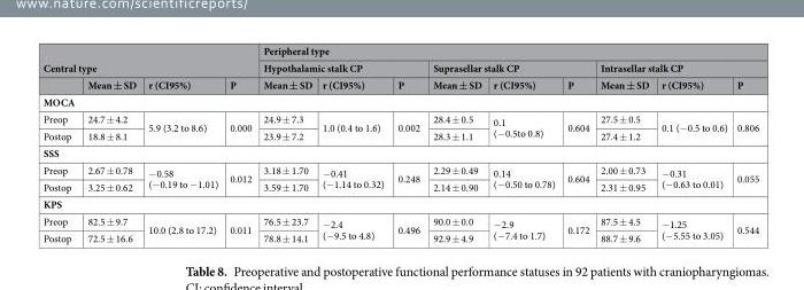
<table><thead><tr><td rowspan="2" colspan="4">Central type</td><td colspan="9">Peripheral type</td></tr><tr><td colspan="3">Hypothalamic stalk CP</td><td colspan="3">Suprasellar stalk CP</td><td colspan="3">Intrasellar stalk CP</td></tr><tr><td></td><td>Mean ± SD</td><td>r (CI95%)</td><td>P</td><td>Mean ± SD</td><td>r (CI95%)</td><td>P</td><td>Mean ± SD</td><td>r (CI95%)</td><td>P</td><td>Mean ± SD</td><td>r (CI95%)</td><td>P</td></tr></thead><tbody><tr><td colspan="13">MOCA</td></tr><tr><td>Preop</td><td>24.7 ± 4.2</td><td rowspan="2">5.9 (3.2 to 8.6)</td><td rowspan="2">0.000</td><td>24.9 ± 7.3</td><td rowspan="2">1.0 (0.4 to 1.6)</td><td rowspan="2">0.002</td><td>28.4 ± 0.5</td><td rowspan="2">0.1 (−0.5to 0.8)</td><td rowspan="2">0.604</td><td>27.5 ± 0.5</td><td rowspan="2">0.1 (−0.5 to 0.6)</td><td rowspan="2">0.806</td></tr><tr><td>Postop</td><td>18.8 ± 8.1</td><td>23.9 ± 7.2</td><td>28.3 ± 1.1</td><td>27.4 ± 1.2</td></tr><tr><td colspan="13">SSS</td></tr><tr><td>Preop</td><td>2.67 ± 0.78</td><td rowspan="2">−0.58 (−0.19 to −1.01)</td><td rowspan="2">0.012</td><td>3.18 ± 1.70</td><td rowspan="2">−0.41 (−1.14 to 0.32)</td><td rowspan="2">0.248</td><td>2.29 ± 0.49</td><td rowspan="2">0.14 (−0.50 to 0.78)</td><td rowspan="2">0.604</td><td>2.00 ± 0.73</td><td rowspan="2">−0.31 (−0.63 to 0.01)</td><td rowspan="2">0.055</td></tr><tr><td>Postop</td><td>3.25 ± 0.62</td><td>3.59 ± 1.70</td><td>2.14 ± 0.90</td><td>2.31 ± 0.95</td></tr><tr><td colspan="13">KPS</td></tr><tr><td>Preop</td><td>82.5 ± 9.7</td><td rowspan="2">10.0 (2.8 to 17.2)</td><td rowspan="2">0.011</td><td>76.5 ± 23.7</td><td rowspan="2">−2.4 (−9.5 to 4.8)</td><td rowspan="2">0.496</td><td>90.0 ± 0.0</td><td rowspan="2">−2.9 (−7.4 to 1.7)</td><td rowspan="2">0.172</td><td>87.5 ± 4.5</td><td rowspan="2">−1.25 (−5.55 to 3.05)</td><td rowspan="2">0.544</td></tr><tr><td>Postop</td><td>72.5 ± 16.6</td><td>78.8 ± 14.1</td><td>92.9 ± 4.9</td><td>88.7 ± 9.6</td></tr></tbody></table>